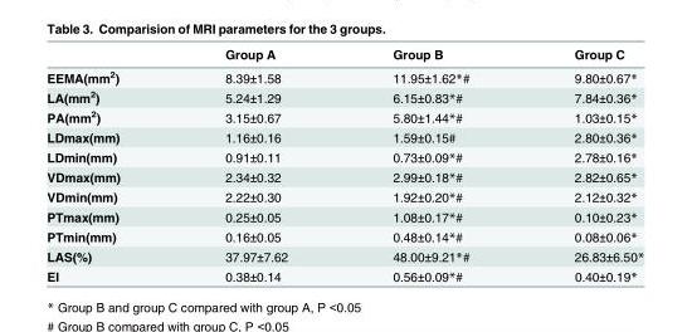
<table><thead><tr><td></td><td>Group A</td><td>Group B</td><td>Group C</td></tr></thead><tbody><tr><td>EEMA(mm<sup>2</sup>)</td><td>8.39±1.58</td><td>11.95±1.62*#</td><td>9.80±0.67*</td></tr><tr><td>LA(mm<sup>2</sup>)</td><td>5.24±1.29</td><td>6.15±0.83*#</td><td>7.84±0.36*</td></tr><tr><td>PA(mm<sup>2</sup>)</td><td>3.15±0.67</td><td>5.80±1.44*#</td><td>1.03±0.15*</td></tr><tr><td>LDmax(mm)</td><td>1.16±0.16</td><td>1.59±0.15#</td><td>2.80±0.36*</td></tr><tr><td>LDmin(mm)</td><td>0.91±0.11</td><td>0.73±0.09*#</td><td>2.78±0.16*</td></tr><tr><td>VDmax(mm)</td><td>2.34±0.32</td><td>2.99±0.18*#</td><td>2.82±0.65*</td></tr><tr><td>VDmin(mm)</td><td>2.22±0.30</td><td>1.92±0.20*#</td><td>2.12±0.32*</td></tr><tr><td>PTmax(mm)</td><td>0.25±0.05</td><td>1.08±0.17*#</td><td>0.10±0.23*</td></tr><tr><td>PTmin(mm)</td><td>0.16±0.05</td><td>0.48±0.14*#</td><td>0.08±0.06*</td></tr><tr><td>LAS(%)</td><td>37.97±7.62</td><td>48.00±9.21*#</td><td>26.83±6.50*</td></tr><tr><td>EI</td><td>0.38±0.14</td><td>0.56±0.09*#</td><td>0.40±0.19*</td></tr></tbody></table>